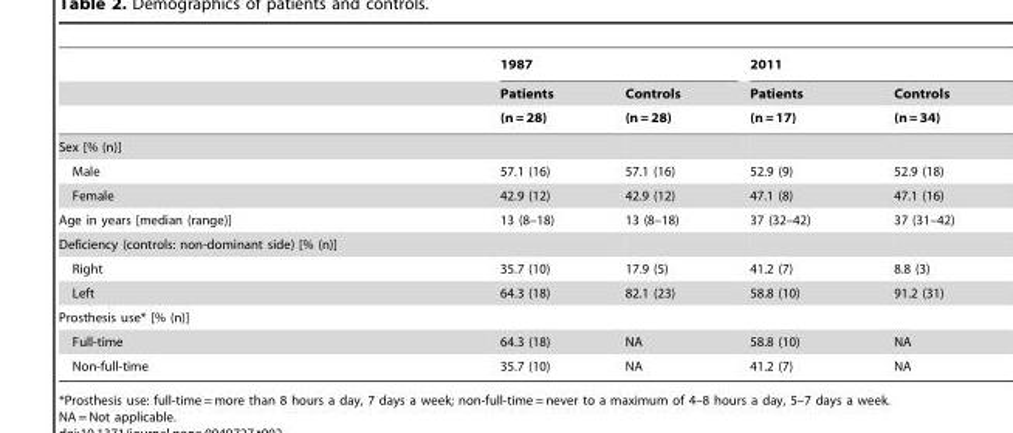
<table><thead><tr><td rowspan="3"></td><td colspan="2">1987</td><td colspan="2">2011</td></tr><tr><td rowspan="2">Patients (n = 28)</td><td rowspan="2">Controls (n = 28)</td><td rowspan="2">Patients (n = 17)</td><td rowspan="2">Controls (n = 34)</td></tr><tr></tr></thead><tbody><tr><td colspan="5">Sex [% (n)]</td></tr><tr><td>Male</td><td>57.1 (16)</td><td>57.1 (16)</td><td>52.9 (9)</td><td>52.9 (18)</td></tr><tr><td>Female</td><td>42.9 (12)</td><td>42.9 (12)</td><td>47.1 (8)</td><td>47.1 (16)</td></tr><tr><td>Age in years [median (range)]</td><td>13 (8–18)</td><td>13 (8–18)</td><td>37 (32–42)</td><td>37 (31–42)</td></tr><tr><td colspan="5">Deficiency (controls: non-dominant side) [% (n)]</td></tr><tr><td>Right</td><td>35.7 (10)</td><td>17.9 (5)</td><td>41.2 (7)</td><td>8.8 (3)</td></tr><tr><td>Left</td><td>64.3 (18)</td><td>82.1 (23)</td><td>58.8 (10)</td><td>91.2 (31)</td></tr><tr><td colspan="5">Prosthesis use* [% (n)]</td></tr><tr><td>Full-time</td><td>64.3 (18)</td><td>NA</td><td>58.8 (10)</td><td>NA</td></tr><tr><td>Non-full-time</td><td>35.7 (10)</td><td>NA</td><td>41.2 (7)</td><td>NA</td></tr></tbody></table>